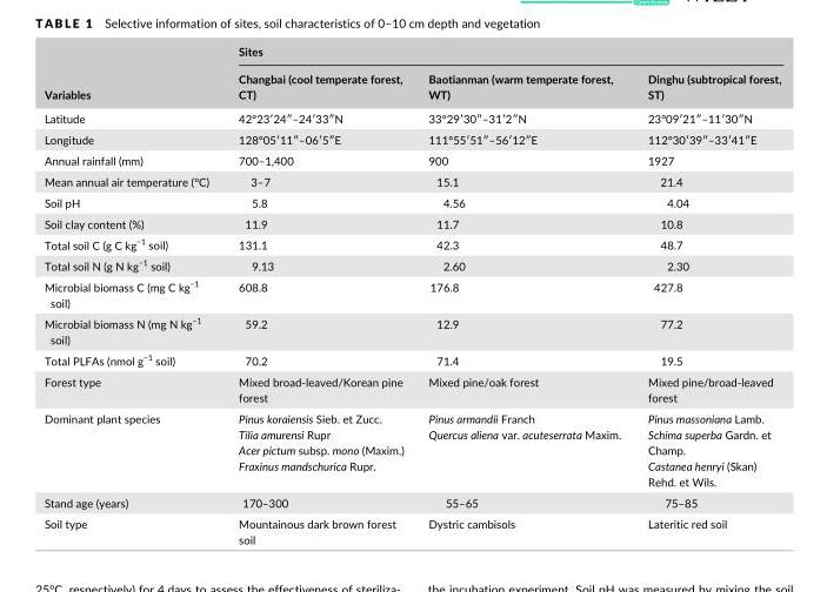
<table><thead><tr><td rowspan="2">Variables</td><td colspan="3">Sites</td></tr><tr><td>Changbai (cool temperate forest, CT)</td><td>Baotianman (warm temperate forest, WT)</td><td>Dinghu (subtropical forest, ST)</td></tr></thead><tbody><tr><td>Latitude</td><td>42°23′24″–24′33″N</td><td>33°29′30″–31′2″N</td><td>23°09′21″–11′30″N</td></tr><tr><td>Longitude</td><td>128°05′11″–06′5″E</td><td>111°55′51″–56′12″E</td><td>112°30′39″–33′41″E</td></tr><tr><td>Annual rainfall (mm)</td><td>700–1,400</td><td>900</td><td>1927</td></tr><tr><td>Mean annual air temperature (°C)</td><td>3–7</td><td>15.1</td><td>21.4</td></tr><tr><td>Soil pH</td><td>5.8</td><td>4.56</td><td>4.04</td></tr><tr><td>Soil clay content (%)</td><td>11.9</td><td>11.7</td><td>10.8</td></tr><tr><td>Total soil C (g C kg<sup>−1</sup> soil)</td><td>131.1</td><td>42.3</td><td>48.7</td></tr><tr><td>Total soil N (g N kg<sup>−1</sup> soil)</td><td>9.13</td><td>2.60</td><td>2.30</td></tr><tr><td>Microbial biomass C (mg C kg<sup>−1</sup> soil)</td><td>608.8</td><td>176.8</td><td>427.8</td></tr><tr><td>Microbial biomass N (mg N kg<sup>−1</sup> soil)</td><td>59.2</td><td>12.9</td><td>77.2</td></tr><tr><td>Total PLFAs (nmol g<sup>−1</sup> soil)</td><td>70.2</td><td>71.4</td><td>19.5</td></tr><tr><td>Forest type</td><td>Mixed broad- leaved/Korean pine forest</td><td>Mixed pine/oak forest</td><td>Mixed pine/broad- leaved forest</td></tr><tr><td>Dominant plant species</td><td>Pinus koraiensis Sieb. et Zucc. Tilia amurensi Rupr Acer pictum subsp. mono (Maxim.) Fraxinus mandschurica Rupr.</td><td>Pinus armandii Franch Quercus aliena var. acuteserrata Maxim.</td><td>Pinus massoniana Lamb. Schima superba Gardn. et Champ. Castanea henryi (Skan) Rehd. et Wils.</td></tr><tr><td>Stand age (years)</td><td>170–300</td><td>55–65</td><td>75–85</td></tr><tr><td>Soil type</td><td>Mountainous dark brown forest soil</td><td>Dystric cambisols</td><td>Lateritic red soil</td></tr></tbody></table>